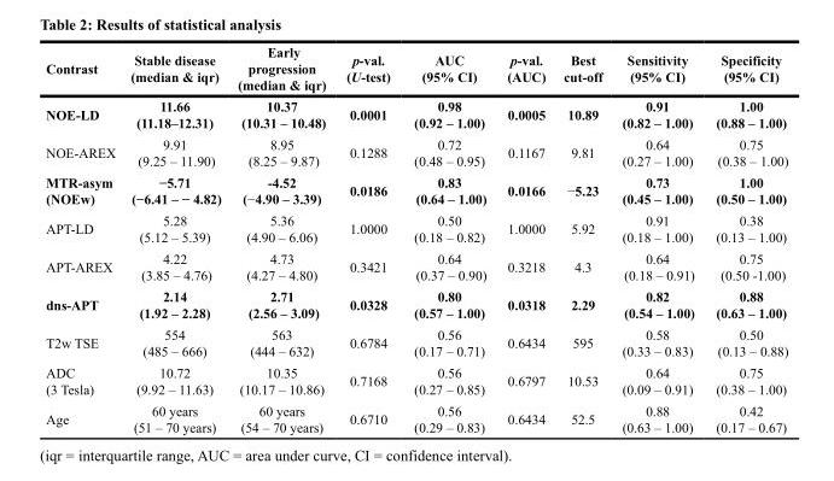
<table><thead><tr><td>Contrast</td><td>Stable disease (median &amp; iqr)</td><td>Early progression (median &amp; iqr)</td><td>p-val. (U-test)</td><td>AUC (95% CI)</td><td>p-val. (AUC)</td><td>Best cut-off</td><td>Sensitivity (95% CI)</td><td>Specificity (95% CI)</td></tr></thead><tbody><tr><td>NOE-LD</td><td>11.66 (11.18–12.31)</td><td>10.37 (10.31 – 10.48)</td><td>0.0001</td><td>0.98 (0.92 – 1.00)</td><td>0.0005</td><td>10.89</td><td>0.91 (0.82 – 1.00)</td><td>1.00 (0.88 – 1.00)</td></tr><tr><td>NOE-AREX</td><td>9.91 (9.25 – 11.90)</td><td>8.95 (8.25 – 9.87)</td><td>0.1288</td><td>0.72 (0.48 – 0.95)</td><td>0.1167</td><td>9.81</td><td>0.64 (0.27 – 1.00)</td><td>0.75 (0.38 – 1.00)</td></tr><tr><td>MTR-asym (NOEw)</td><td>−5.71 (−6.41 – − 4.82)</td><td>-4.52 (−4.90 – 3.39)</td><td>0.0186</td><td>0.83 (0.64 – 1.00)</td><td>0.0166</td><td>−5.23</td><td>0.73 (0.45 – 1.00)</td><td>1.00 (0.50 – 1.00)</td></tr><tr><td>APT-LD</td><td>5.28 (5.12 – 5.39)</td><td>5.36 (4.90 – 6.06)</td><td>1.0000</td><td>0.50 (0.18 – 0.82)</td><td>1.0000</td><td>5.92</td><td>0.91 (0.18 – 1.00)</td><td>0.38 (0.13 – 1.00)</td></tr><tr><td>APT-AREX</td><td>4.22 (3.85 – 4.76)</td><td>4.73 (4.27 – 4.80)</td><td>0.3421</td><td>0.64 (0.37 – 0.90)</td><td>0.3218</td><td>4.3</td><td>0.64 (0.18 – 0.91)</td><td>0.75 (0.50 -1.00)</td></tr><tr><td>dns-APT</td><td>2.14 (1.92 – 2.28)</td><td>2.71 (2.56 – 3.09)</td><td>0.0328</td><td>0.80 (0.57 – 1.00)</td><td>0.0318</td><td>2.29</td><td>0.82 (0.54 – 1.00)</td><td>0.88 (0.63 – 1.00)</td></tr><tr><td>T2w TSE</td><td>554 (485 – 666)</td><td>563 (444 – 632)</td><td>0.6784</td><td>0.56 (0.17 – 0.71)</td><td>0.6434</td><td>595</td><td>0.58 (0.33 – 0.83)</td><td>0.50 (0.13 – 0.88)</td></tr><tr><td>ADC (3 Tesla)</td><td>10.72 (9.92 – 11.63)</td><td>10.35 (10.17 – 10.86)</td><td>0.7168</td><td>0.56 (0.27 – 0.85)</td><td>0.6797</td><td>10.53</td><td>0.64 (0.09 – 0.91)</td><td>0.75 (0.38 – 1.00)</td></tr><tr><td>Age</td><td>60 years (51 – 70 years)</td><td>60 years (54 – 70 years)</td><td>0.6710</td><td>0.56 (0.29 – 0.83)</td><td>0.6434</td><td>52.5</td><td>0.88 (0.63 – 1.00)</td><td>0.42 (0.17 – 0.67)</td></tr></tbody></table>